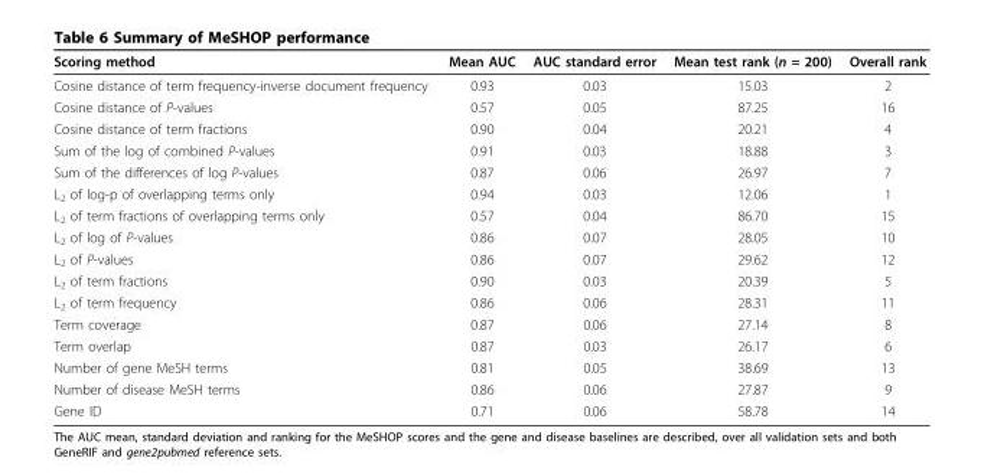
<table><thead><tr><td>Scoring method</td><td>Mean AUC</td><td>AUC standard error</td><td>Mean test rank (n = 200)</td><td>Overall rank</td></tr></thead><tbody><tr><td>Cosine distance of term frequency-inverse document frequency</td><td>0.93</td><td>0.03</td><td>15.03</td><td>2</td></tr><tr><td>Cosine distance of P-values</td><td>0.57</td><td>0.05</td><td>87.25</td><td>16</td></tr><tr><td>Cosine distance of term fractions</td><td>0.90</td><td>0.04</td><td>20.21</td><td>4</td></tr><tr><td>Sum of the log of combined P-values</td><td>0.91</td><td>0.03</td><td>18.88</td><td>3</td></tr><tr><td>Sum of the differences of log P-values</td><td>0.87</td><td>0.06</td><td>26.97</td><td>7</td></tr><tr><td>L<sub>2</sub> of log-p of overlapping terms only</td><td>0.94</td><td>0.03</td><td>12.06</td><td>1</td></tr><tr><td>L<sub>2</sub> of term fractions of overlapping terms only</td><td>0.57</td><td>0.04</td><td>86.70</td><td>15</td></tr><tr><td>L<sub>2</sub> of log of P-values</td><td>0.86</td><td>0.07</td><td>28.05</td><td>10</td></tr><tr><td>L<sub>2</sub> of P-values</td><td>0.86</td><td>0.07</td><td>29.62</td><td>12</td></tr><tr><td>L<sub>2</sub> of term fractions</td><td>0.90</td><td>0.03</td><td>20.39</td><td>5</td></tr><tr><td>L<sub>2</sub> of term frequency</td><td>0.86</td><td>0.06</td><td>28.31</td><td>11</td></tr><tr><td>Term coverage</td><td>0.87</td><td>0.06</td><td>27.14</td><td>8</td></tr><tr><td>Term overlap</td><td>0.87</td><td>0.03</td><td>26.17</td><td>6</td></tr><tr><td>Number of gene MeSH terms</td><td>0.81</td><td>0.05</td><td>38.69</td><td>13</td></tr><tr><td>Number of disease MeSH terms</td><td>0.86</td><td>0.06</td><td>27.87</td><td>9</td></tr><tr><td>Gene ID</td><td>0.71</td><td>0.06</td><td>58.78</td><td>14</td></tr></tbody></table>